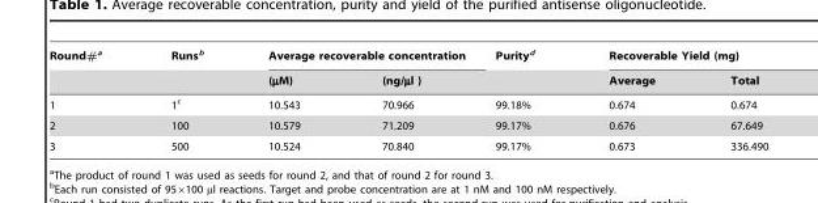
<table><thead><tr><td rowspan="2">Round#<sup>a</sup></td><td rowspan="2">Runs<sup>b</sup></td><td colspan="2">Average recoverable concentration</td><td rowspan="2">Purity<sup>d</sup></td><td colspan="2">Recoverable Yield (mg)</td></tr><tr><td>(µM)</td><td>(ng/µl )</td><td>Average</td><td>Total</td></tr></thead><tbody><tr><td>1</td><td>1<sup>c</sup></td><td>10.543</td><td>70.966</td><td>99.18%</td><td>0.674</td><td>0.674</td></tr><tr><td>2</td><td>100</td><td>10.579</td><td>71.209</td><td>99.17%</td><td>0.676</td><td>67.649</td></tr><tr><td>3</td><td>500</td><td>10.524</td><td>70.840</td><td>99.17%</td><td>0.673</td><td>336.490</td></tr></tbody></table>